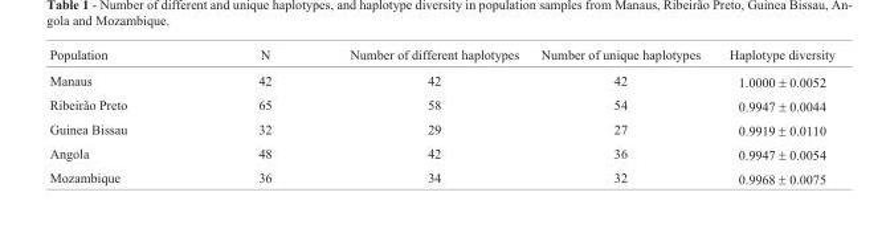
<table><thead><tr><td>Population</td><td>N</td><td>Number of different haplotypes</td><td>Number of unique haplotypes</td><td>Haplotype diversity</td></tr></thead><tbody><tr><td>Manaus</td><td>42</td><td>42</td><td>42</td><td>1.0000 ± 0.0052</td></tr><tr><td>Ribeirão Preto</td><td>65</td><td>58</td><td>54</td><td>0.9947 ± 0.0044</td></tr><tr><td>Guinea Bissau</td><td>32</td><td>29</td><td>27</td><td>0.9919 ± 0.0110</td></tr><tr><td>Angola</td><td>48</td><td>42</td><td>36</td><td>0.9947 ± 0.0054</td></tr><tr><td>Mozambique</td><td>36</td><td>34</td><td>32</td><td>0.9968 ± 0.0075</td></tr></tbody></table>